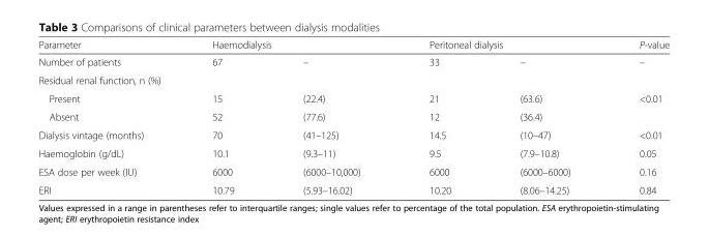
<table><thead><tr><td rowspan="2">Parameter Number of patients</td><td colspan="2">Haemodialysis</td><td colspan="2">Peritoneal dialysis</td><td rowspan="2">P-value –</td></tr><tr><td>67</td><td>–</td><td>33</td><td>–</td></tr></thead><tbody><tr><td colspan="6">Residual renal function, n (%)</td></tr><tr><td>Present</td><td>15</td><td>(22.4)</td><td>21</td><td>(63.6)</td><td rowspan="2">&lt;0.01</td></tr><tr><td>Absent</td><td>52</td><td>(77.6)</td><td>12</td><td>(36.4)</td></tr><tr><td>Dialysis vintage (months)</td><td>70</td><td>(41–125)</td><td>14.5</td><td>(10–47)</td><td>&lt;0.01</td></tr><tr><td>Haemoglobin (g/dL)</td><td>10.1</td><td>(9.3–11)</td><td>9.5</td><td>(7.9–10.8)</td><td>0.05</td></tr><tr><td>ESA dose per week (IU)</td><td>6000</td><td>(6000–10,000)</td><td>6000</td><td>(6000–6000)</td><td>0.16</td></tr><tr><td>ERI</td><td>10.79</td><td>(5.93–16.02)</td><td>10.20</td><td>(8.06–14.25)</td><td>0.84</td></tr></tbody></table>